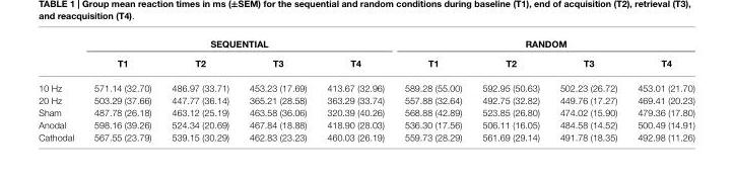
<table><thead><tr><td rowspan="2"></td><td colspan="4">SEQUENTIAL</td><td colspan="4">RANDOM</td></tr><tr><td>T1</td><td>T2</td><td>T3</td><td>T4</td><td>T1</td><td>T2</td><td>T3</td><td>T4</td></tr></thead><tbody><tr><td>10 Hz</td><td>571.14 (32.70)</td><td>486.97 (33.71)</td><td>453.23 (17.69)</td><td>413.67 (32.96)</td><td>589.28 (55.00)</td><td>592.95 (50.63)</td><td>502.23 (26.72)</td><td>453.01 (21.70)</td></tr><tr><td>20 Hz</td><td>503.29 (37.66)</td><td>447.77 (36.14)</td><td>365.21 (28.58)</td><td>363.29 (33.74)</td><td>557.88 (32.64)</td><td>492.75 (32.82)</td><td>449.76 (17.27)</td><td>469.41 (20.23)</td></tr><tr><td>Sham</td><td>487.78 (26.18)</td><td>463.12 (25.19)</td><td>463.58 (36.06)</td><td>320.39 (40.26)</td><td>568.88 (42.89)</td><td>523.85 (26.80)</td><td>474.02 (15.90)</td><td>479.36 (17.80)</td></tr><tr><td>Anodal</td><td>598.16 (39.26)</td><td>524.34 (20.69)</td><td>467.84 (18.88)</td><td>418.90 (28.03)</td><td>536.30 (17.56)</td><td>506.11 (16.05)</td><td>484.58 (14.52)</td><td>500.49 (14.91)</td></tr><tr><td>Cathodal</td><td>567.55 (23.79)</td><td>539.15 (30.29)</td><td>462.83 (23.23)</td><td>460.03 (26.19)</td><td>559.73 (28.29)</td><td>561.69 (29.14)</td><td>491.78 (18.35)</td><td>492.98 (11.26)</td></tr></tbody></table>